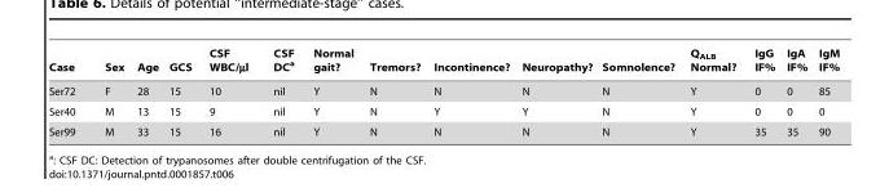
<table><thead><tr><td>Case</td><td>Sex</td><td>Age</td><td>GCS</td><td>CSF WBC/µl</td><td>CSF DC<sup>a</sup></td><td>Normal gait?</td><td>Tremors?</td><td>Incontinence?</td><td>Neuropathy?</td><td>Somnolence?</td><td>Q<sub>ALB</sub> Normal?</td><td>IgG IF%</td><td>IgA IF%</td><td>IgM IF%</td></tr></thead><tbody><tr><td>Ser72</td><td>F</td><td>28</td><td>15</td><td>10</td><td>nil</td><td>Y</td><td>N</td><td>N</td><td>N</td><td>N</td><td>Y</td><td>0</td><td>0</td><td>85</td></tr><tr><td>Ser40</td><td>M</td><td>13</td><td>15</td><td>9</td><td>nil</td><td>Y</td><td>N</td><td>Y</td><td>Y</td><td>N</td><td>Y</td><td>0</td><td>0</td><td>0</td></tr><tr><td>Ser99</td><td>M</td><td>33</td><td>15</td><td>16</td><td>nil</td><td>Y</td><td>N</td><td>N</td><td>N</td><td>N</td><td>Y</td><td>35</td><td>35</td><td>90</td></tr></tbody></table>